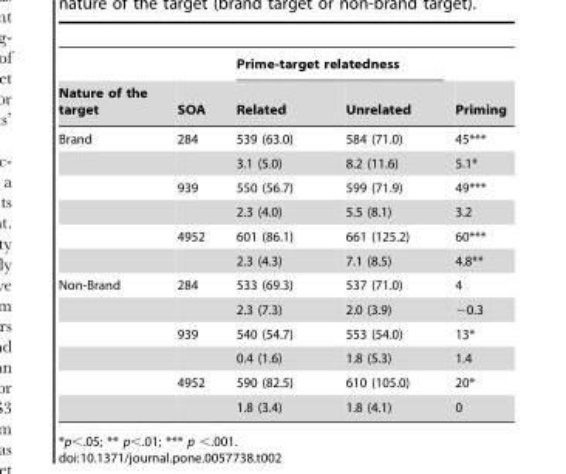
<table><thead><tr><td rowspan="2">Nature of the target</td><td rowspan="2">SOA</td><td colspan="2">Prime-target relatedness</td><td rowspan="2">Priming</td></tr><tr><td>Related</td><td>Unrelated</td></tr></thead><tbody><tr><td rowspan="6">Brand</td><td>284</td><td>539 (63.0)</td><td>584 (71.0)</td><td>45***</td></tr><tr><td></td><td>3.1 (5.0)</td><td>8.2 (11.6)</td><td>5.1*</td></tr><tr><td>939</td><td>550 (56.7)</td><td>599 (71.9)</td><td>49***</td></tr><tr><td></td><td>2.3 (4.0)</td><td>5.5 (8.1)</td><td>3.2</td></tr><tr><td>4952</td><td>601 (86.1)</td><td>661 (125.2)</td><td>60***</td></tr><tr><td></td><td>2.3 (4.3)</td><td>7.1 (8.5)</td><td>4.8**</td></tr><tr><td rowspan="6">Non-Brand</td><td>284</td><td>533 (69.3)</td><td>537 (71.0)</td><td>4</td></tr><tr><td></td><td>2.3 (7.3)</td><td>2.0 (3.9)</td><td>−0.3</td></tr><tr><td>939</td><td>540 (54.7)</td><td>553 (54.0)</td><td>13*</td></tr><tr><td></td><td>0.4 (1.6)</td><td>1.8 (5.3)</td><td>1.4</td></tr><tr><td>4952</td><td>590 (82.5)</td><td>610 (105.0)</td><td>20*</td></tr><tr><td></td><td>1.8 (3.4)</td><td>1.8 (4.1)</td><td>0</td></tr></tbody></table>